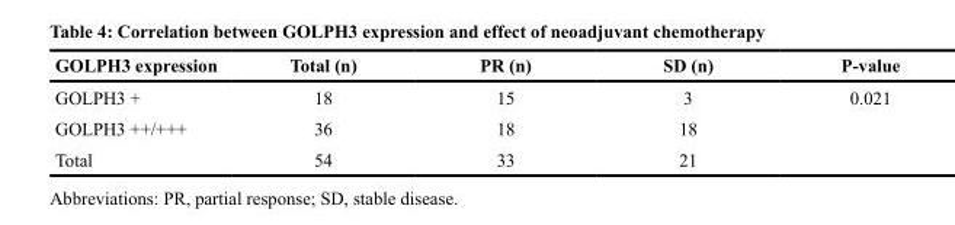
<table><thead><tr><td>GOLPH3 expression</td><td>Total (n)</td><td>PR (n)</td><td>SD (n)</td><td>P-value</td></tr></thead><tbody><tr><td>GOLPH3 +</td><td>18</td><td>15</td><td>3</td><td>0.021</td></tr><tr><td>GOLPH3 ++/+++</td><td>36</td><td>18</td><td>18</td><td></td></tr><tr><td>Total</td><td>54</td><td>33</td><td>21</td><td></td></tr></tbody></table>